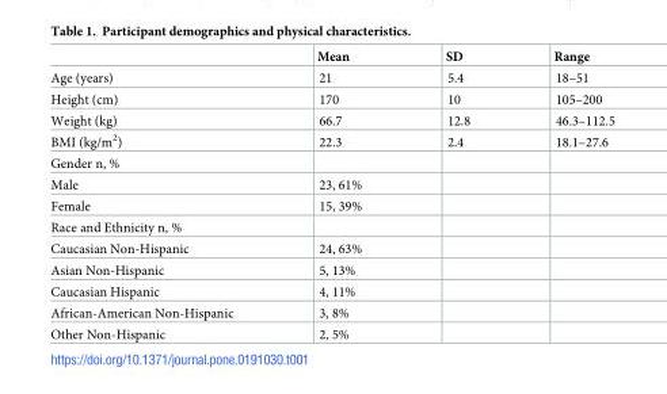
<table><thead><tr><td></td><td>Mean</td><td>SD</td><td>Range</td></tr></thead><tbody><tr><td>Age (years)</td><td>21</td><td>5.4</td><td>18–51</td></tr><tr><td>Height (cm)</td><td>170</td><td>10</td><td>105–200</td></tr><tr><td>Weight (kg)</td><td>66.7</td><td>12.8</td><td>46.3–112.5</td></tr><tr><td>BMI (kg/m<sup>2</sup>)</td><td>22.3</td><td>2.4</td><td>18.1–27.6</td></tr><tr><td colspan="4">Gender n, %</td></tr><tr><td>Male</td><td>23, 61%</td><td></td><td></td></tr><tr><td>Female</td><td>15, 39%</td><td></td><td></td></tr><tr><td colspan="4">Race and Ethnicity n, %</td></tr><tr><td>Caucasian Non-Hispanic</td><td>24, 63%</td><td></td><td></td></tr><tr><td>Asian Non-Hispanic</td><td>5, 13%</td><td></td><td></td></tr><tr><td>Caucasian Hispanic</td><td>4, 11%</td><td></td><td></td></tr><tr><td>African-American Non-Hispanic</td><td>3, 8%</td><td></td><td></td></tr><tr><td>Other Non-Hispanic</td><td>2, 5%</td><td></td><td></td></tr></tbody></table>